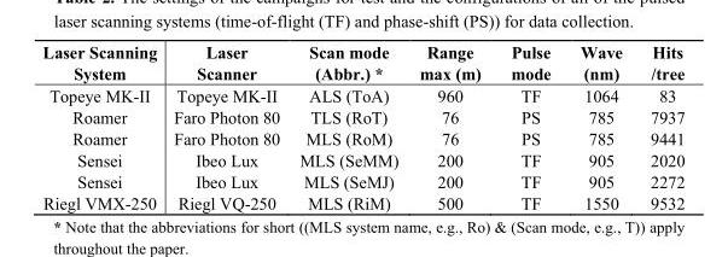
<table><thead><tr><td>Laser Scanning System</td><td>Laser Scanner</td><td>Scan mode (Abbr.) *</td><td>Range max (m)</td><td>Pulse mode</td><td>Wave (nm)</td><td>Hits /tree</td></tr></thead><tbody><tr><td>Topeye MK-II</td><td>Topeye MK-II</td><td>ALS (ToA)</td><td>960</td><td>TF</td><td>1064</td><td>83</td></tr><tr><td>Roamer</td><td>Faro Photon 80</td><td>TLS (RoT)</td><td>76</td><td>PS</td><td>785</td><td>7937</td></tr><tr><td>Roamer</td><td>Faro Photon 80</td><td>MLS (RoM)</td><td>76</td><td>PS</td><td>785</td><td>9441</td></tr><tr><td>Sensei</td><td>Ibeo Lux</td><td>MLS (SeMM)</td><td>200</td><td>TF</td><td>905</td><td>2020</td></tr><tr><td>Sensei</td><td>Ibeo Lux</td><td>MLS (SeMJ)</td><td>200</td><td>TF</td><td>905</td><td>2272</td></tr><tr><td>Riegl VMX-250</td><td>Riegl VQ-250</td><td>MLS (RiM)</td><td>500</td><td>TF</td><td>1550</td><td>9532</td></tr></tbody></table>